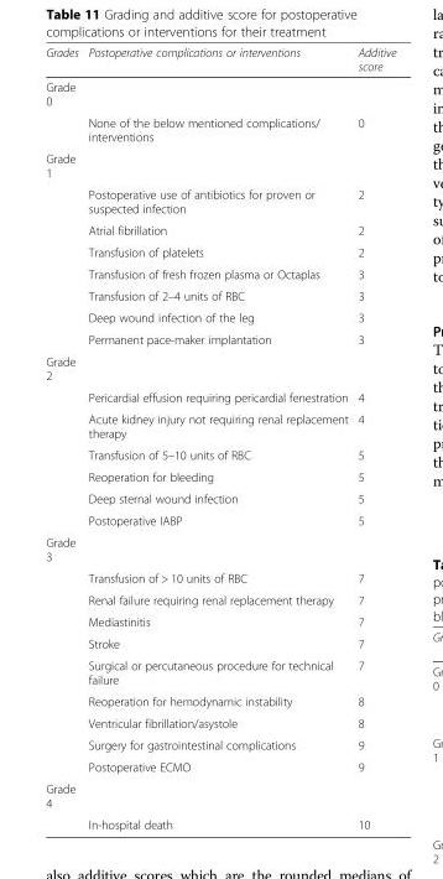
<table><thead><tr><td>Grades</td><td>Postoperative complications or interventions</td><td>Additive score</td></tr></thead><tbody><tr><td colspan="3">Grade 0</td></tr><tr><td></td><td>None of the below mentioned complications/ interventions</td><td>0</td></tr><tr><td colspan="3">Grade 1</td></tr><tr><td></td><td>Postoperative use of antibiotics for proven or suspected infection</td><td>2</td></tr><tr><td></td><td>Atrial fibrillation</td><td>2</td></tr><tr><td></td><td>Transfusion of platelets</td><td>2</td></tr><tr><td></td><td>Transfusion of fresh frozen plasma or Octaplas</td><td>3</td></tr><tr><td></td><td>Transfusion of 2–4 units of RBC</td><td>3</td></tr><tr><td></td><td>Deep wound infection of the leg</td><td>3</td></tr><tr><td></td><td>Permanent pace-maker implantation</td><td>3</td></tr><tr><td colspan="3">Grade 2</td></tr><tr><td></td><td>Pericardial effusion requiring pericardial fenestration</td><td>4</td></tr><tr><td></td><td>Acute kidney injury not requiring renal replacement therapy</td><td>4</td></tr><tr><td></td><td>Transfusion of 5–10 units of RBC</td><td>5</td></tr><tr><td></td><td>Reoperation for bleeding</td><td>5</td></tr><tr><td></td><td>Deep sternal wound infection</td><td>5</td></tr><tr><td></td><td>Postoperative IABP</td><td>5</td></tr><tr><td colspan="3">Grade 3</td></tr><tr><td></td><td>Transfusion of &gt; 10 units of RBC</td><td>7</td></tr><tr><td></td><td>Renal failure requiring renal replacement therapy</td><td>7</td></tr><tr><td></td><td>Mediastinitis</td><td>7</td></tr><tr><td></td><td>Stroke</td><td>7</td></tr><tr><td></td><td>Surgical or percutaneous procedure for technical failure</td><td>7</td></tr><tr><td></td><td>Reoperation for hemodynamic instability</td><td>8</td></tr><tr><td></td><td>Ventricular fibrillation/asystole</td><td>8</td></tr><tr><td></td><td>Surgery for gastrointestinal complications</td><td>9</td></tr><tr><td></td><td>Postoperative ECMO</td><td>9</td></tr><tr><td colspan="3">Grade 4</td></tr><tr><td></td><td>In-hospital death</td><td>10</td></tr></tbody></table>